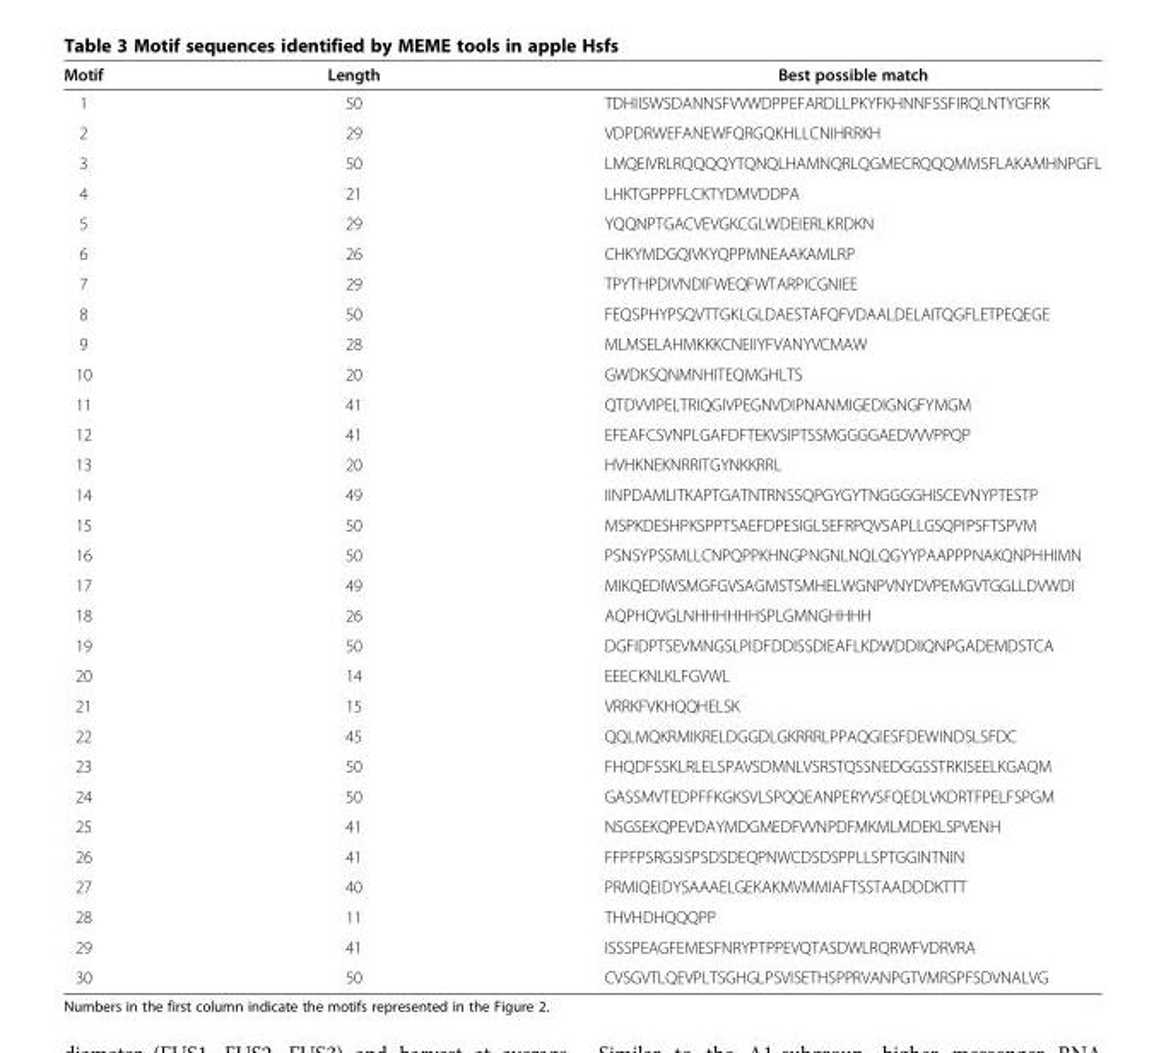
<table><thead><tr><td>Motif</td><td>Length</td><td>Best possible match</td></tr></thead><tbody><tr><td>1</td><td>50</td><td>TDHIISWSDANNSFVVWDPPEFARDLLPKYFKHNNFSSFIRQLNTYGFRK</td></tr><tr><td>2</td><td>29</td><td>VDPDRWEFANEWFQRGQKHLLCNIHRRKH</td></tr><tr><td>3</td><td>50</td><td>LMQEIVRLRQQQQYTQNQLHAMNQRLQGMECRQQQMMSFLAKAMHNPGFL</td></tr><tr><td>4</td><td>21</td><td>LHKTGPPPFLCKTYDMVDDPA</td></tr><tr><td>5</td><td>29</td><td>YQQNPTGACVEVGKCGLWDEIERLKRDKN</td></tr><tr><td>6</td><td>26</td><td>CHKYMDGQIVKYQPPMNEAAKAMLRP</td></tr><tr><td>7</td><td>29</td><td>TPYTHPDIVNDIFWEQFWTARPICGNIEE</td></tr><tr><td>8</td><td>50</td><td>FEQSPHYPSQVTTGKLGLDAESTAFQFVDAALDELAITQGFLETPEQEGE</td></tr><tr><td>9</td><td>28</td><td>MLMSELAHMKKKCNEIIYFVANYVCMAW</td></tr><tr><td>10</td><td>20</td><td>GWDKSQNMNHITEQMGHLTS</td></tr><tr><td>11</td><td>41</td><td>QTDVVIPELTRIQGIVPEGNVDIPNANMIGEDIGNGFYMGM</td></tr><tr><td>12</td><td>41</td><td>EFEAFCSVNPLGAFDFTEKVSIPTSSMGGGGAEDVVVPPQP</td></tr><tr><td>13</td><td>20</td><td>HVHKNEKNRRITGYNKKRRL</td></tr><tr><td>14</td><td>49</td><td>IINPDAMLITKAPTGATNTRNSSQPGYGYTNGGGGHISCEVNYPTESTP</td></tr><tr><td>15</td><td>50</td><td>MSPKDESHPKSPPTSAEFDPESIGLSEFRPQVSAPLLGSQPIPSFTSPVM</td></tr><tr><td>16</td><td>50</td><td>PSNSYPSSMLLCNPQPPKHNGPNGNLNQLQGYYPAAPPPNAKQNPHHIMN</td></tr><tr><td>17</td><td>49</td><td>MIKQEDIWSMGFGVSAGMSTSMHELWGNPVNYDVPEMGVTGGLLDVWDI</td></tr><tr><td>18</td><td>26</td><td>AQPHQVGLNHHHHHHSPLGMNGHHHH</td></tr><tr><td>19</td><td>50</td><td>DGFIDPTSEVMNGSLPIDFDDISSDIEAFLKDWDDIIQNPGADEMDSTCA</td></tr><tr><td>20</td><td>14</td><td>EEECKNLKLFGVWL</td></tr><tr><td>21</td><td>15</td><td>VRRKFVKHQQHELSK</td></tr><tr><td>22</td><td>45</td><td>QQLMQKRMIKRELDGGDLGKRRRLPPAQGIESFDEWINDSLSFDC</td></tr><tr><td>23</td><td>50</td><td>FHQDFSSKLRLELSPAVSDMNLVSRSTQSSNEDGGSSTRKISEELKGAQM</td></tr><tr><td>24</td><td>50</td><td>GASSMVTEDPFFKGKSVLSPQQEANPERYVSFQEDLVKDRTFPELFSPGM</td></tr><tr><td>25</td><td>41</td><td>NSGSEKQPEVDAYMDGMEDFVVNPDFMKMLMDEKLSPVENH</td></tr><tr><td>26</td><td>41</td><td>FFPFPSRGSISPSDSDEQPNWCDSDSPPLLSPTGGINTNIN</td></tr><tr><td>27</td><td>40</td><td>PRMIQEIDYSAAAELGEKAKMVMMIAFTSSTAADDDKTTT</td></tr><tr><td>28</td><td>11</td><td>THVHDHQQQPP</td></tr><tr><td>29</td><td>41</td><td>ISSSPEAGFEMESFNRYPTPPEVQTASDWLRQRWFVDRVRA</td></tr><tr><td>30</td><td>50</td><td>CVSGVTLQEVPLTSGHGLPSVISETHSPPRVANPGTVMRSPFSDVNALVG</td></tr></tbody></table>